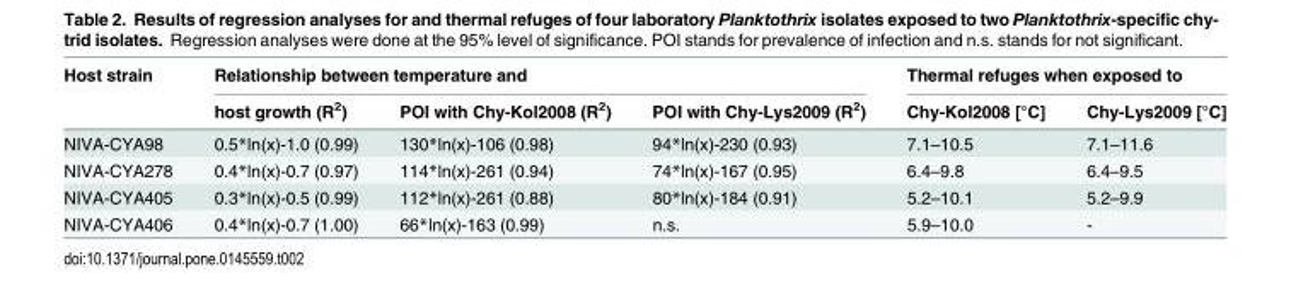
<table><thead><tr><td rowspan="2">Host strain</td><td colspan="3">Relationship between temperature and</td><td colspan="2">Thermal refuges when exposed to</td></tr><tr><td>host growth (R<sup>2</sup>)</td><td>POI with Chy-Kol2008 (R<sup>2</sup>)</td><td>POI with Chy-Lys2009 (R<sup>2</sup>)</td><td>Chy-Kol2008 [°C]</td><td>Chy-Lys2009 [°C]</td></tr></thead><tbody><tr><td>NIVA-CYA98</td><td>0.5*ln(x)-1.0 (0.99)</td><td>130*ln(x)-106 (0.98)</td><td>94*ln(x)-230 (0.93)</td><td>7.1–10.5</td><td>7.1–11.6</td></tr><tr><td>NIVA-CYA278</td><td>0.4*ln(x)-0.7 (0.97)</td><td>114*ln(x)-261 (0.94)</td><td>74*ln(x)-167 (0.95)</td><td>6.4–9.8</td><td>6.4–9.5</td></tr><tr><td>NIVA-CYA405</td><td>0.3*ln(x)-0.5 (0.99)</td><td>112*ln(x)-261 (0.88)</td><td>80*ln(x)-184 (0.91)</td><td>5.2–10.1</td><td>5.2–9.9</td></tr><tr><td>NIVA-CYA406</td><td>0.4*ln(x)-0.7 (1.00)</td><td>66*ln(x)-163 (0.99)</td><td>n.s.</td><td>5.9–10.0</td><td>-</td></tr></tbody></table>